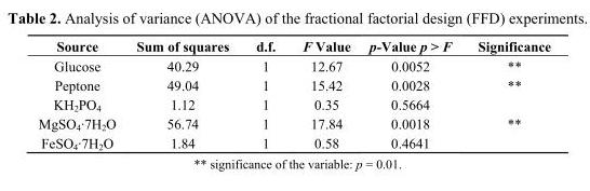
<table><thead><tr><td>Source</td><td>Sum of squares</td><td>d.f.</td><td>F Value</td><td>p-Value p &gt; F</td><td>Significance</td></tr></thead><tbody><tr><td>Glucose</td><td>40.29</td><td>1</td><td>12.67</td><td>0.0052</td><td>**</td></tr><tr><td>Peptone</td><td>49.04</td><td>1</td><td>15.42</td><td>0.0028</td><td>**</td></tr><tr><td>KH<sub>2</sub>PO<sub>4</sub></td><td>1.12</td><td>1</td><td>0.35</td><td>0.5664</td><td></td></tr><tr><td>MgSO<sub>4</sub>·7H<sub>2</sub>O</td><td>56.74</td><td>1</td><td>17.84</td><td>0.0018</td><td>**</td></tr><tr><td>FeSO<sub>4</sub>·7H<sub>2</sub>O</td><td>1.84</td><td>1</td><td>0.58</td><td>0.4641</td><td></td></tr></tbody></table>